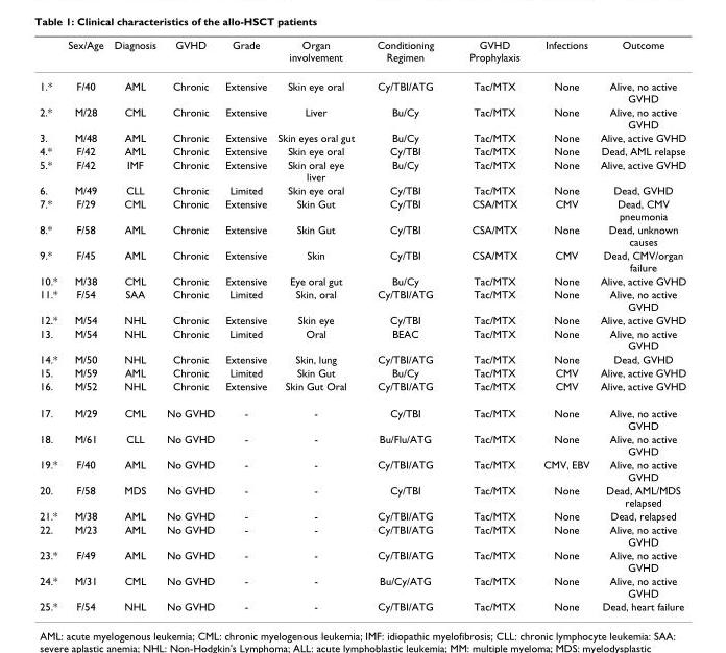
<table><thead><tr><td></td><td>Sex/Age</td><td>Diagnosis</td><td>GVHD</td><td>Grade</td><td>Organ involvement</td><td>Conditioning Regimen</td><td>GVHD Prophylaxis</td><td>Infections</td><td>Outcome</td></tr></thead><tbody><tr><td>1.*</td><td>F/40</td><td>AML</td><td>Chronic</td><td>Extensive</td><td>Skin eye oral</td><td>Cy/TBI/ATG</td><td>Tac/MTX</td><td>None</td><td>Alive, no active GVHD</td></tr><tr><td>2.*</td><td>M/28</td><td>CML</td><td>Chronic</td><td>Extensive</td><td>Liver</td><td>Bu/Cy</td><td>Tac/MTX</td><td>None</td><td>Alive, no active GVHD</td></tr><tr><td>3.</td><td>M/48</td><td>AML</td><td>Chronic</td><td>Extensive</td><td>Skin eyes oral gut</td><td>Bu/Cy</td><td>Tac/MTX</td><td>None</td><td>Alive, active GVHD</td></tr><tr><td>4.*</td><td>F/42</td><td>AML</td><td>Chronic</td><td>Extensive</td><td>Skin eye oral</td><td>Cy/TBI</td><td>Tac/MTX</td><td>None</td><td>Dead, AML relapse</td></tr><tr><td>5.*</td><td>F/42</td><td>IMF</td><td>Chronic</td><td>Extensive</td><td>Skin oral eye liver</td><td>Bu/Cy</td><td>Tac/MTX</td><td>None</td><td>Alive, active GVHD</td></tr><tr><td>6.</td><td>M/49</td><td>CLL</td><td>Chronic</td><td>Limited</td><td>Skin eye oral</td><td>Cy/TBI</td><td>Tac/MTX</td><td>None</td><td>Dead, GVHD</td></tr><tr><td>7.*</td><td>F/29</td><td>CML</td><td>Chronic</td><td>Extensive</td><td>Skin Gut</td><td>Cy/TBI</td><td>CSA/MTX</td><td>CMV</td><td>Dead, CMV pneumonia</td></tr><tr><td>8.*</td><td>F/58</td><td>AML</td><td>Chronic</td><td>Extensive</td><td>Skin Gut</td><td>Cy/TBI</td><td>CSA/MTX</td><td>None</td><td>Dead, unknown causes</td></tr><tr><td>9.*</td><td>F/45</td><td>AML</td><td>Chronic</td><td>Extensive</td><td>Skin</td><td>Cy/TBI</td><td>CSA/MTX</td><td>CMV</td><td>Dead, CMV/organ failure</td></tr><tr><td>10.*</td><td>M/38</td><td>CML</td><td>Chronic</td><td>Extensive</td><td>Eye oral gut</td><td>Bu/Cy</td><td>Tac/MTX</td><td>None</td><td>Alive, active GVHD</td></tr><tr><td>11.*</td><td>F/54</td><td>SAA</td><td>Chronic</td><td>Limited</td><td>Skin, oral</td><td>Cy/TBI/ATG</td><td>Tac/MTX</td><td>None</td><td>Alive, no active GVHD</td></tr><tr><td>12.*</td><td>M/54</td><td>NHL</td><td>Chronic</td><td>Extensive</td><td>Skin eye</td><td>Cy/TBI</td><td>Tac/MTX</td><td>None</td><td>Alive, active GVHD</td></tr><tr><td>13.</td><td>M/54</td><td>NHL</td><td>Chronic</td><td>Limited</td><td>Oral</td><td>BEAC</td><td>Tac/MTX</td><td>None</td><td>Alive, no active GVHD</td></tr><tr><td>14.*</td><td>M/50</td><td>NHL</td><td>Chronic</td><td>Extensive</td><td>Skin, lung</td><td>Cy/TBI/ATG</td><td>Tac/MTX</td><td>None</td><td>Dead, GVHD</td></tr><tr><td>15.</td><td>M/59</td><td>AML</td><td>Chronic</td><td>Limited</td><td>Skin Gut</td><td>Bu/Cy</td><td>Tac/MTX</td><td>CMV</td><td>Alive, active GVHD</td></tr><tr><td>16.</td><td>M/52</td><td>NHL</td><td>Chronic</td><td>Extensive</td><td>Skin Gut Oral</td><td>Cy/TBI/ATG</td><td>Tac/MTX</td><td>CMV</td><td>Alive, active GVHD</td></tr><tr><td>17.</td><td>M/29</td><td>CML</td><td>No GVHD</td><td>-</td><td>-</td><td>Cy/TBI</td><td>Tac/MTX</td><td>None</td><td>Alive, no active GVHD</td></tr><tr><td>18.</td><td>M/61</td><td>CLL</td><td>No GVHD</td><td>-</td><td>-</td><td>Bu/Flu/ATG</td><td>Tac/MTX</td><td>None</td><td>Alive, no active GVHD</td></tr><tr><td>19.*</td><td>F/40</td><td>AML</td><td>No GVHD</td><td>-</td><td>-</td><td>Cy/TBI/ATG</td><td>Tac/MTX</td><td>CMV, EBV</td><td>Alive, no active GVHD</td></tr><tr><td>20.</td><td>F/58</td><td>MDS</td><td>No GVHD</td><td>-</td><td>-</td><td>Cy/TBI</td><td>Tac/MTX</td><td>None</td><td>Dead, AML/MDS relapsed</td></tr><tr><td>21.*</td><td>M/38</td><td>AML</td><td>No GVHD</td><td>-</td><td>-</td><td>Cy/TBI/ATG</td><td>Tac/MTX</td><td>None</td><td>Dead, relapsed</td></tr><tr><td>22.</td><td>M/23</td><td>AML</td><td>No GVHD</td><td>-</td><td>-</td><td>Cy/TBI/ATG</td><td>Tac/MTX</td><td>None</td><td>Alive, no active GVHD</td></tr><tr><td>23.*</td><td>F/49</td><td>AML</td><td>No GVHD</td><td>-</td><td>-</td><td>Cy/TBI/ATG</td><td>Tac/MTX</td><td>None</td><td>Alive, no active GVHD</td></tr><tr><td>24.*</td><td>M/31</td><td>CML</td><td>No GVHD</td><td>-</td><td>-</td><td>Bu/Cy/ATG</td><td>Tac/MTX</td><td>None</td><td>Alive, no active GVHD</td></tr><tr><td>25.*</td><td>F/54</td><td>NHL</td><td>No GVHD</td><td>-</td><td>-</td><td>Cy/TBI/ATG</td><td>Tac/MTX</td><td>None</td><td>Dead, heart failure</td></tr></tbody></table>